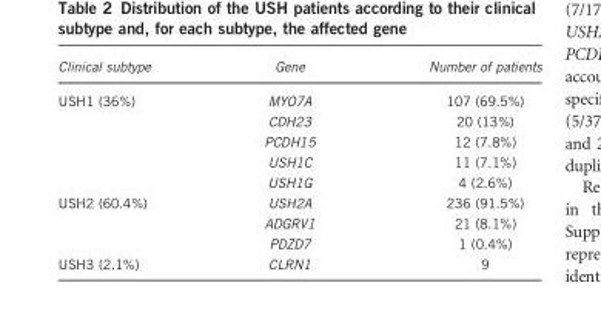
<table><thead><tr><td>Clinical subtype</td><td>Gene</td><td>Number of patients</td></tr></thead><tbody><tr><td rowspan="5">USH1 (36%)</td><td>MYO7A</td><td>107 (69.5%)</td></tr><tr><td>CDH23</td><td>20 (13%)</td></tr><tr><td>PCDH15</td><td>12 (7.8%)</td></tr><tr><td>USH1C</td><td>11 (7.1%)</td></tr><tr><td>USH1G</td><td>4 (2.6%)</td></tr><tr><td rowspan="3">USH2 (60.4%)</td><td>USH2A</td><td>236 (91.5%)</td></tr><tr><td>ADGRV1</td><td>21 (8.1%)</td></tr><tr><td>PDZD7</td><td>1 (0.4%)</td></tr><tr><td>USH3 (2.1%)</td><td>CLRN1</td><td>9</td></tr></tbody></table>